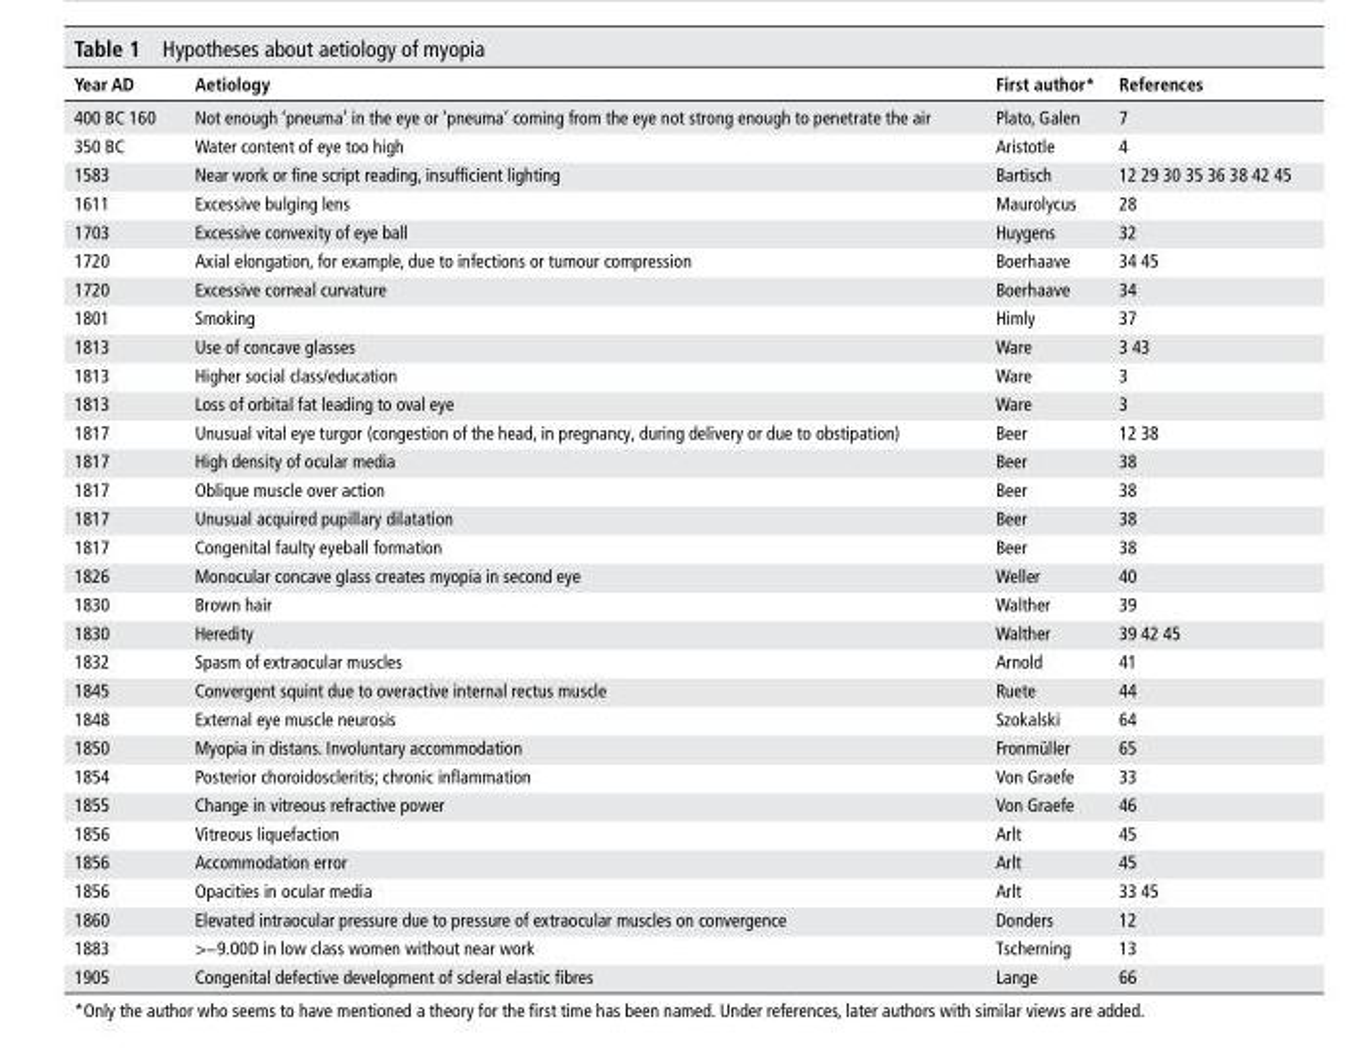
<table><thead><tr><td>year Ad</td><td>Aetiology</td><td>First author*</td><td>references</td></tr></thead><tbody><tr><td>400 BC 160</td><td>Not enough ‘pneuma’ in the eye or ‘pneuma’ coming from the eye not strong enough to penetrate the air</td><td>Plato, Galen</td><td>7</td></tr><tr><td>350 BC</td><td>Water content of eye too high</td><td>Aristotle</td><td>4</td></tr><tr><td>1583</td><td>Near work or fine script reading, insufficient lighting</td><td>Bartisch</td><td>12 29 30 35 36 38 42 45</td></tr><tr><td>1611</td><td>Excessive bulging lens</td><td>Maurolycus</td><td>28</td></tr><tr><td>1703</td><td>Excessive convexity of eye ball</td><td>Huygens</td><td>32</td></tr><tr><td>1720</td><td>Axial elongation, for example, due to infections or tumour compression</td><td>Boerhaave</td><td>34 45</td></tr><tr><td>1720</td><td>Excessive corneal curvature</td><td>Boerhaave</td><td>34</td></tr><tr><td>1801</td><td>Smoking</td><td>Himly</td><td>37</td></tr><tr><td>1813</td><td>Use of concave glasses</td><td>Ware</td><td>3 43</td></tr><tr><td>1813</td><td>Higher social class/education</td><td>Ware</td><td>3</td></tr><tr><td>1813</td><td>Loss of orbital fat leading to oval eye</td><td>Ware</td><td>3</td></tr><tr><td>1817</td><td>Unusual vital eye turgor (congestion of the head, in pregnancy, during delivery or due to obstipation)</td><td>Beer</td><td>12 38</td></tr><tr><td>1817</td><td>High density of ocular media</td><td>Beer</td><td>38</td></tr><tr><td>1817</td><td>Oblique muscle over action</td><td>Beer</td><td>38</td></tr><tr><td>1817</td><td>Unusual acquired pupillary dilatation</td><td>Beer</td><td>38</td></tr><tr><td>1817</td><td>Congenital faulty eyeball formation</td><td>Beer</td><td>38</td></tr><tr><td>1826</td><td>Monocular concave glass creates myopia in second eye</td><td>Weller</td><td>40</td></tr><tr><td>1830</td><td>Brown hair</td><td>Walther</td><td>39</td></tr><tr><td>1830</td><td>Heredity</td><td>Walther</td><td>39 42 45</td></tr><tr><td>1832</td><td>Spasm of extraocular muscles</td><td>Arnold</td><td>41</td></tr><tr><td>1845</td><td>Convergent squint due to overactive internal rectus muscle</td><td>Ruete</td><td>44</td></tr><tr><td>1848</td><td>External eye muscle neurosis</td><td>Szokalski</td><td>64</td></tr><tr><td>1850</td><td>Myopia in distans. Involuntary accommodation</td><td>Fronmüller</td><td>65</td></tr><tr><td>1854</td><td>Posterior choroidoscleritis; chronic inflammation</td><td>Von Graefe</td><td>33</td></tr><tr><td>1855</td><td>Change in vitreous refractive power</td><td>Von Graefe</td><td>46</td></tr><tr><td>1856</td><td>Vitreous liquefaction</td><td>Arlt</td><td>45</td></tr><tr><td>1856</td><td>Accommodation error</td><td>Arlt</td><td>45</td></tr><tr><td>1856</td><td>Opacities in ocular media</td><td>Arlt</td><td>33 45</td></tr><tr><td>1860</td><td>Elevated intraocular pressure due to pressure of extraocular muscles on convergence</td><td>Donders</td><td>12</td></tr><tr><td>1883</td><td>&gt;−9.00D in low class women without near work</td><td>Tscherning</td><td>13</td></tr><tr><td>1905</td><td>Congenital defective development of scleral elastic fibres</td><td>Lange</td><td>66</td></tr></tbody></table>